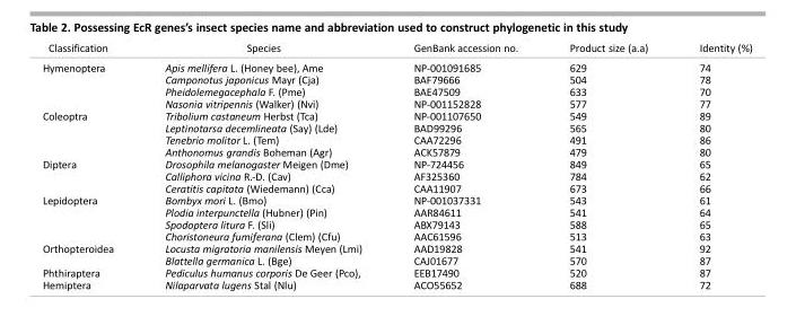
<table><thead><tr><td>Classification</td><td>Species</td><td>GenBank accession no.</td><td>Product size (a.a)</td><td>Identity (%)</td></tr></thead><tbody><tr><td rowspan="4">Hymenoptera</td><td>Apis mellifera L. (Honey bee), Ame</td><td>NP-001091685</td><td>629</td><td>74</td></tr><tr><td>Camponotus japonicus Mayr (Cja)</td><td>BAF79666</td><td>504</td><td>78</td></tr><tr><td>Pheidolemegacephala F. (Pme)</td><td>BAE47509</td><td>633</td><td>70</td></tr><tr><td>Nasonia vitripennis (Walker) (Nvi)</td><td>NP-001152828</td><td>577</td><td>77</td></tr><tr><td rowspan="4">Coleoptra</td><td>Tribolium castaneum Herbst (Tca)</td><td>NP-001107650</td><td>549</td><td>89</td></tr><tr><td>Leptinotarsa decemlineata (Say) (Lde)</td><td>BAD99296</td><td>565</td><td>80</td></tr><tr><td>Tenebrio molitor L. (Tem)</td><td>CAA72296</td><td>491</td><td>86</td></tr><tr><td>Anthonomus grandis Boheman (Agr)</td><td>ACK57879</td><td>479</td><td>80</td></tr><tr><td rowspan="3">Diptera</td><td>Drosophila melanogaster Meigen (Dme)</td><td>NP-724456</td><td>849</td><td>65</td></tr><tr><td>Calliphora vicina R.-D. (Cav)</td><td>AF325360</td><td>784</td><td>62</td></tr><tr><td>Ceratitis capitata (Wiedemann) (Cca)</td><td>CAA11907</td><td>673</td><td>66</td></tr><tr><td rowspan="4">Lepidoptera</td><td>Bombyx mori L. (Bmo)</td><td>NP-001037331</td><td>543</td><td>61</td></tr><tr><td>Plodia interpunctella (Hubner) (Pin)</td><td>AAR84611</td><td>541</td><td>64</td></tr><tr><td>Spodoptera litura F. (Sli)</td><td>ABX79143</td><td>588</td><td>65</td></tr><tr><td>Choristoneura fumiferana (Clem) (Cfu)</td><td>AAC61596</td><td>513</td><td>63</td></tr><tr><td rowspan="2">Orthopteroidea</td><td>Locusta migratoria manilensis Meyen (Lmi)</td><td>AAD19828</td><td>541</td><td>92</td></tr><tr><td>Blattella germanica L. (Bge)</td><td>CAJ01677</td><td>570</td><td>87</td></tr><tr><td>Phthiraptera</td><td>Pediculus humanus corporis De Geer (Pco),</td><td>EEB17490</td><td>520</td><td>87</td></tr><tr><td>Hemiptera</td><td>Nilaparvata lugens Stal (Nlu)</td><td>ACO55652</td><td>688</td><td>72</td></tr></tbody></table>